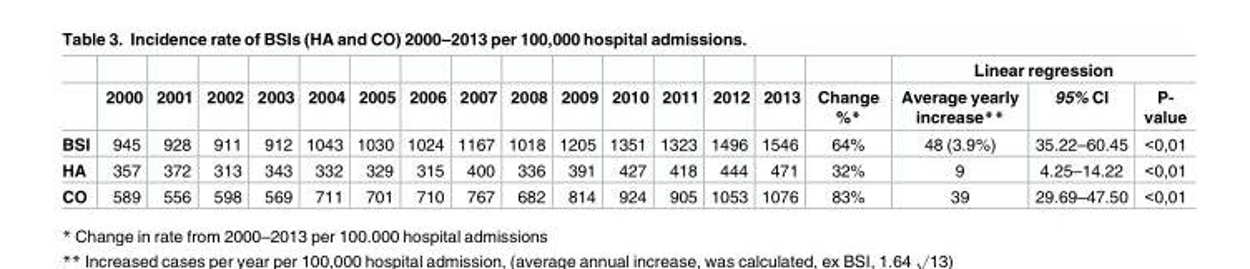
<table><thead><tr><td rowspan="2"></td><td rowspan="2">2000</td><td rowspan="2">2001</td><td rowspan="2">2002</td><td rowspan="2">2003</td><td rowspan="2">2004</td><td rowspan="2">2005</td><td rowspan="2">2006</td><td rowspan="2">2007</td><td rowspan="2">2008</td><td rowspan="2">2009</td><td rowspan="2">2010</td><td rowspan="2">2011</td><td rowspan="2">2012</td><td rowspan="2">2013</td><td rowspan="2">Change %*</td><td colspan="3">Linear regression</td></tr><tr><td>Average yearly increase**</td><td>95% CI</td><td>P- value</td></tr></thead><tbody><tr><td>BSI</td><td>945</td><td>928</td><td>911</td><td>912</td><td>1043</td><td>1030</td><td>1024</td><td>1167</td><td>1018</td><td>1205</td><td>1351</td><td>1323</td><td>1496</td><td>1546</td><td>64%</td><td>48 (3.9%)</td><td>35.22–60.45</td><td>&lt;0,01</td></tr><tr><td>HA</td><td>357</td><td>372</td><td>313</td><td>343</td><td>332</td><td>329</td><td>315</td><td>400</td><td>336</td><td>391</td><td>427</td><td>418</td><td>444</td><td>471</td><td>32%</td><td>9</td><td>4.25–14.22</td><td>&lt;0,01</td></tr><tr><td>CO</td><td>589</td><td>556</td><td>598</td><td>569</td><td>711</td><td>701</td><td>710</td><td>767</td><td>682</td><td>814</td><td>924</td><td>905</td><td>1053</td><td>1076</td><td>83%</td><td>39</td><td>29.69–47.50</td><td>&lt;0,01</td></tr></tbody></table>